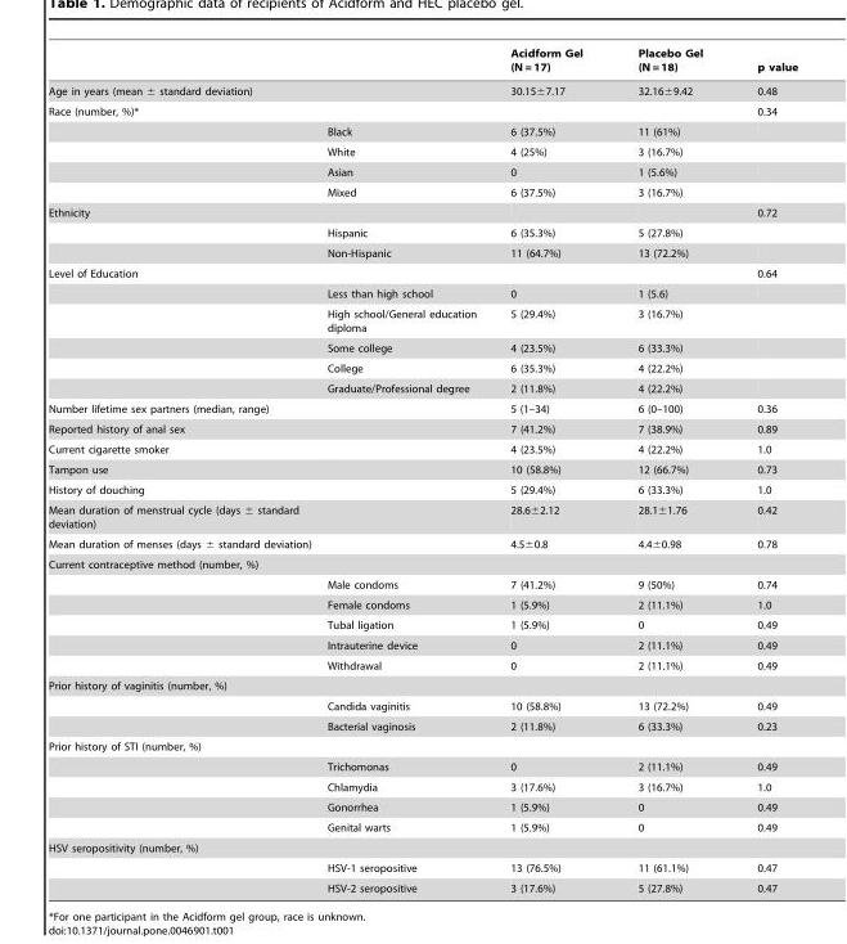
<table><thead><tr><td></td><td></td><td>Acidform Gel (N = 17)</td><td>Placebo Gel (N = 18)</td><td>p value</td></tr></thead><tbody><tr><td>Age in years (mean ± standard deviation)</td><td></td><td>30.15±7.17</td><td>32.16±9.42</td><td>0.48</td></tr><tr><td rowspan="5">Race (number, %)*</td><td></td><td></td><td></td><td>0.34</td></tr><tr><td>Black</td><td>6 (37.5%)</td><td>11 (61%)</td><td></td></tr><tr><td>White</td><td>4 (25%)</td><td>3 (16.7%)</td><td></td></tr><tr><td>Asian</td><td>0</td><td>1 (5.6%)</td><td></td></tr><tr><td>Mixed</td><td>6 (37.5%)</td><td>3 (16.7%)</td><td></td></tr><tr><td rowspan="3">Ethnicity</td><td></td><td></td><td></td><td>0.72</td></tr><tr><td>Hispanic</td><td>6 (35.3%)</td><td>5 (27.8%)</td><td></td></tr><tr><td>Non-Hispanic</td><td>11 (64.7%)</td><td>13 (72.2%)</td><td></td></tr><tr><td rowspan="6">Level of Education</td><td></td><td></td><td></td><td>0.64</td></tr><tr><td>Less than high school</td><td>0</td><td>1 (5.6)</td><td></td></tr><tr><td>High school/General education diploma</td><td>5 (29.4%)</td><td>3 (16.7%)</td><td></td></tr><tr><td>Some college</td><td>4 (23.5%)</td><td>6 (33.3%)</td><td></td></tr><tr><td>College</td><td>6 (35.3%)</td><td>4 (22.2%)</td><td></td></tr><tr><td>Graduate/Professional degree</td><td>2 (11.8%)</td><td>4 (22.2%)</td><td></td></tr><tr><td>Number lifetime sex partners (median, range)</td><td></td><td>5 (1–34)</td><td>6 (0–100)</td><td>0.36</td></tr><tr><td>Reported history of anal sex</td><td></td><td>7 (41.2%)</td><td>7 (38.9%)</td><td>0.89</td></tr><tr><td>Current cigarette smoker</td><td></td><td>4 (23.5%)</td><td>4 (22.2%)</td><td>1.0</td></tr><tr><td>Tampon use</td><td></td><td>10 (58.8%)</td><td>12 (66.7%)</td><td>0.73</td></tr><tr><td>History of douching</td><td></td><td>5 (29.4%)</td><td>6 (33.3%)</td><td>1.0</td></tr><tr><td>Mean duration of menstrual cycle (days ± standard deviation)</td><td></td><td>28.6±2.12</td><td>28.1±1.76</td><td>0.42</td></tr><tr><td>Mean duration of menses (days ± standard deviation)</td><td></td><td>4.5±0.8</td><td>4.4±0.98</td><td>0.78</td></tr><tr><td colspan="5">Current contraceptive method (number, %)</td></tr><tr><td></td><td>Male condoms</td><td>7 (41.2%)</td><td>9 (50%)</td><td>0.74</td></tr><tr><td></td><td>Female condoms</td><td>1 (5.9%)</td><td>2 (11.1%)</td><td>1.0</td></tr><tr><td></td><td>Tubal ligation</td><td>1 (5.9%)</td><td>0</td><td>0.49</td></tr><tr><td></td><td>Intrauterine device</td><td>0</td><td>2 (11.1%)</td><td>0.49</td></tr><tr><td></td><td>Withdrawal</td><td>0</td><td>2 (11.1%)</td><td>0.49</td></tr><tr><td colspan="5">Prior history of vaginitis (number, %)</td></tr><tr><td></td><td>Candida vaginitis</td><td>10 (58.8%)</td><td>13 (72.2%)</td><td>0.49</td></tr><tr><td></td><td>Bacterial vaginosis</td><td>2 (11.8%)</td><td>6 (33.3%)</td><td>0.23</td></tr><tr><td colspan="5">Prior history of STI (number, %)</td></tr><tr><td></td><td>Trichomonas</td><td>0</td><td>2 (11.1%)</td><td>0.49</td></tr><tr><td></td><td>Chlamydia</td><td>3 (17.6%)</td><td>3 (16.7%)</td><td>1.0</td></tr><tr><td></td><td>Gonorrhea</td><td>1 (5.9%)</td><td>0</td><td>0.49</td></tr><tr><td></td><td>Genital warts</td><td>1 (5.9%)</td><td>0</td><td>0.49</td></tr><tr><td colspan="5">HSV seropositivity (number, %)</td></tr><tr><td></td><td>HSV-1 seropositive</td><td>13 (76.5%)</td><td>11 (61.1%)</td><td>0.47</td></tr><tr><td></td><td>HSV-2 seropositive</td><td>3 (17.6%)</td><td>5 (27.8%)</td><td>0.47</td></tr></tbody></table>